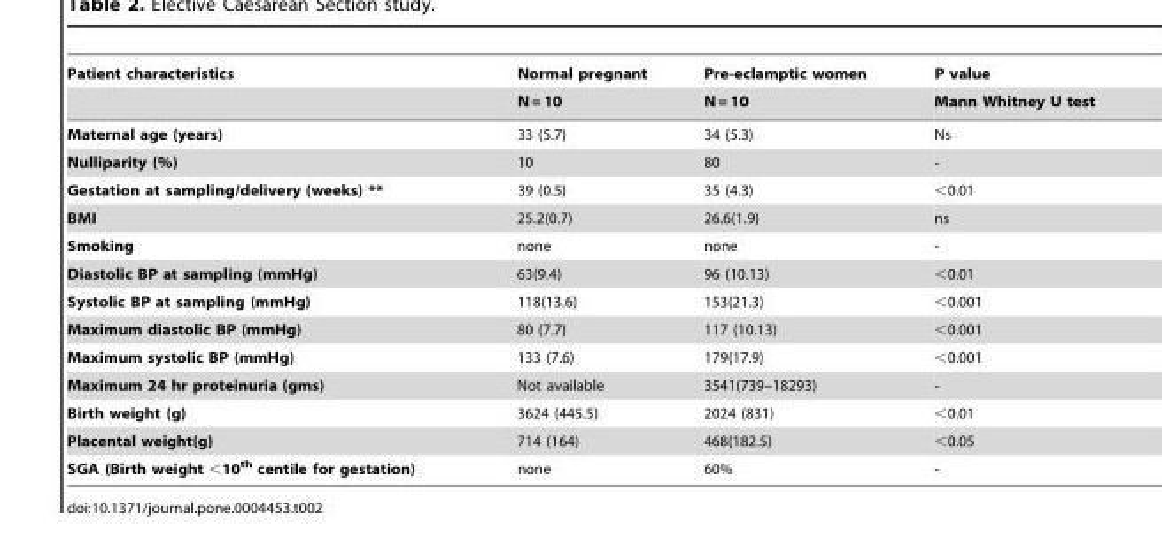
<table><thead><tr><td rowspan="2">Patient characteristics</td><td rowspan="2">Normal pregnant N = 10</td><td rowspan="2">Pre-eclamptic women N = 10</td><td rowspan="2">P value Mann Whitney U test</td></tr><tr></tr></thead><tbody><tr><td>Maternal age (years)</td><td>33 (5.7)</td><td>34 (5.3)</td><td>Ns</td></tr><tr><td>Nulliparity (%)</td><td>10</td><td>80</td><td>-</td></tr><tr><td>Gestation at sampling/delivery (weeks) **</td><td>39 (0.5)</td><td>35 (4.3)</td><td>&lt;0.01</td></tr><tr><td>BMI</td><td>25.2(0.7)</td><td>26.6(1.9)</td><td>ns</td></tr><tr><td>Smoking</td><td>none</td><td>none</td><td>-</td></tr><tr><td>Diastolic BP at sampling (mmHg)</td><td>63(9.4)</td><td>96 (10.13)</td><td>&lt;0.01</td></tr><tr><td>Systolic BP at sampling (mmHg)</td><td>118(13.6)</td><td>153(21.3)</td><td>&lt;0.001</td></tr><tr><td>Maximum diastolic BP (mmHg)</td><td>80 (7.7)</td><td>117 (10.13)</td><td>&lt;0.001</td></tr><tr><td>Maximum systolic BP (mmHg)</td><td>133 (7.6)</td><td>179(17.9)</td><td>&lt;0.001</td></tr><tr><td>Maximum 24 hr proteinuria (gms)</td><td>Not available</td><td>3541(739–18293)</td><td>-</td></tr><tr><td>Birth weight (g)</td><td>3624 (445.5)</td><td>2024 (831)</td><td>&lt;0.01</td></tr><tr><td>Placental weight(g)</td><td>714 (164)</td><td>468(182.5)</td><td>&lt;0.05</td></tr><tr><td>SGA (Birth weight &lt;10<sup>th</sup> centile for gestation)</td><td>none</td><td>60%</td><td>-</td></tr></tbody></table>